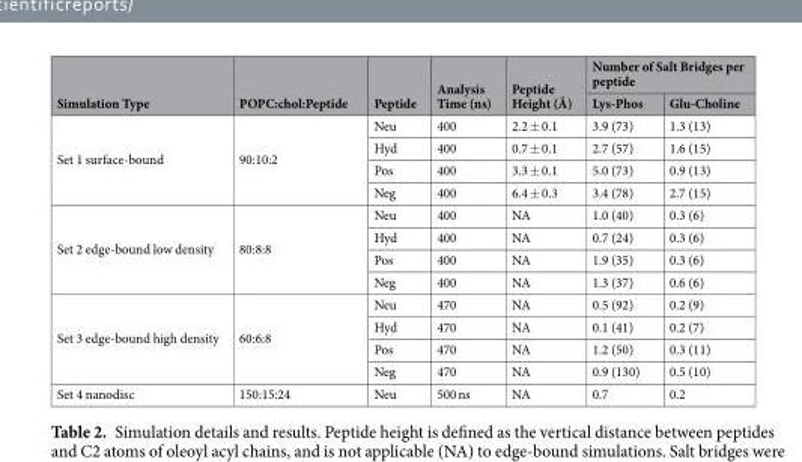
<table><thead><tr><td rowspan="2">Simulation Type</td><td rowspan="2">POPC:chol:Peptide</td><td rowspan="2">Peptide</td><td rowspan="2">Analysis Time (ns)</td><td rowspan="2">Peptide Height (Å)</td><td colspan="2">Number of Salt Bridges per peptide</td></tr><tr><td>Lys-Phos</td><td>Glu-Choline</td></tr></thead><tbody><tr><td rowspan="4">Set 1 surface-bound</td><td rowspan="4">90:10:2</td><td>Neu</td><td>400</td><td>2.2 ± 0.1</td><td>3.9 (73)</td><td>1.3 (13)</td></tr><tr><td>Hyd</td><td>400</td><td>0.7 ± 0.1</td><td>2.7 (57)</td><td>1.6 (15)</td></tr><tr><td>Pos</td><td>400</td><td>3.3 ± 0.1</td><td>5.0 (73)</td><td>0.9 (13)</td></tr><tr><td>Neg</td><td>400</td><td>6.4 ± 0.3</td><td>3.4 (78)</td><td>2.7 (15)</td></tr><tr><td rowspan="4">Set 2 edge-bound low density</td><td rowspan="4">80:8:8</td><td>Neu</td><td>400</td><td>NA</td><td>1.0 (40)</td><td>0.3 (6)</td></tr><tr><td>Hyd</td><td>400</td><td>NA</td><td>0.7 (24)</td><td>0.3 (6)</td></tr><tr><td>Pos</td><td>400</td><td>NA</td><td>1.9 (35)</td><td>0.3 (6)</td></tr><tr><td>Neg</td><td>400</td><td>NA</td><td>1.3 (37)</td><td>0.6 (6)</td></tr><tr><td rowspan="4">Set 3 edge-bound high density</td><td rowspan="4">60:6:8</td><td>Neu</td><td>470</td><td>NA</td><td>0.5 (92)</td><td>0.2 (9)</td></tr><tr><td>Hyd</td><td>470</td><td>NA</td><td>0.1 (41)</td><td>0.2 (7)</td></tr><tr><td>Pos</td><td>470</td><td>NA</td><td>1.2 (50)</td><td>0.3 (11)</td></tr><tr><td>Neg</td><td>470</td><td>NA</td><td>0.9 (130)</td><td>0.5 (10)</td></tr><tr><td>Set 4 nanodisc</td><td>150:15:24</td><td>Neu</td><td>500 ns</td><td>NA</td><td>0.7</td><td>0.2</td></tr></tbody></table>